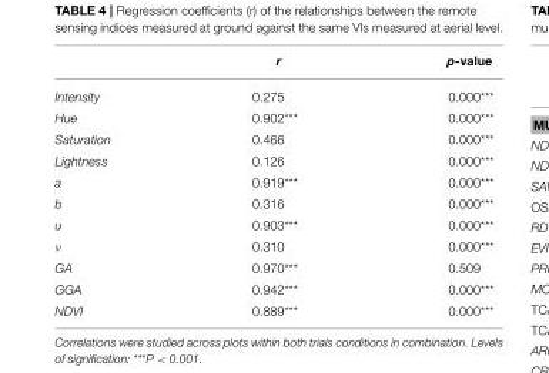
<table><thead><tr><td></td><td>r</td><td>p-value</td></tr></thead><tbody><tr><td>Intensity</td><td>0.275</td><td>0.000***</td></tr><tr><td>Hue</td><td>0.902***</td><td>0.000***</td></tr><tr><td>Saturation</td><td>0.466</td><td>0.000***</td></tr><tr><td>Lightness</td><td>0.126</td><td>0.000***</td></tr><tr><td>a</td><td>0.919***</td><td>0.000***</td></tr><tr><td>b</td><td>0.316</td><td>0.000***</td></tr><tr><td>u</td><td>0.903***</td><td>0.000***</td></tr><tr><td>ν</td><td>0.310</td><td>0.000***</td></tr><tr><td>GA</td><td>0.970***</td><td>0.509</td></tr><tr><td>GGA</td><td>0.942***</td><td>0.000***</td></tr><tr><td>NDVI</td><td>0.889***</td><td>0.000***</td></tr></tbody></table>